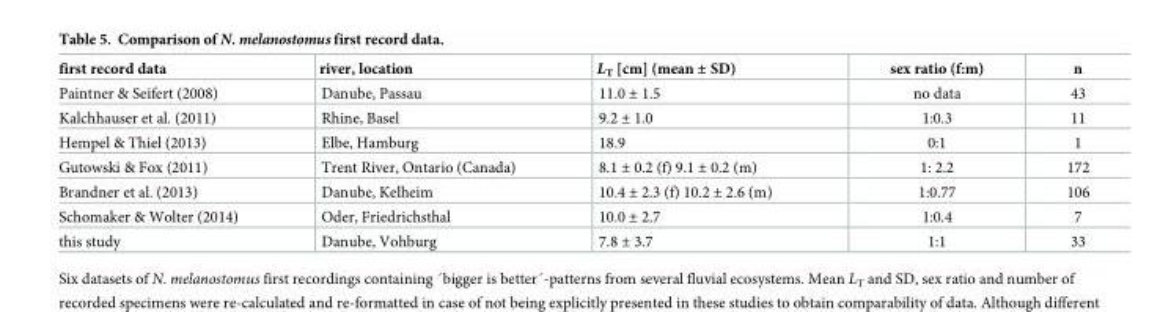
<table><thead><tr><td>first record data</td><td>river, location</td><td>L<sub>T</sub> [cm] (mean ± SD)</td><td>sex ratio (f:m)</td><td>n</td></tr></thead><tbody><tr><td>Paintner &amp; Seifert (2008)</td><td>Danube, Passau</td><td>11.0 ± 1.5</td><td>no data</td><td>43</td></tr><tr><td>Kalchhauser et al. (2011)</td><td>Rhine, Basel</td><td>9.2 ± 1.0</td><td>1:0.3</td><td>11</td></tr><tr><td>Hempel &amp; Thiel (2013)</td><td>Elbe, Hamburg</td><td>18.9</td><td>0:1</td><td>1</td></tr><tr><td>Gutowski &amp; Fox (2011)</td><td>Trent River, Ontario (Canada)</td><td>8.1 ± 0.2 (f) 9.1 ± 0.2 (m)</td><td>1: 2.2</td><td>172</td></tr><tr><td>Brandner et al. (2013)</td><td>Danube, Kelheim</td><td>10.4 ± 2.3 (f) 10.2 ± 2.6 (m)</td><td>1:0.77</td><td>106</td></tr><tr><td>Schomaker &amp; Wolter (2014)</td><td>Oder, Friedrichsthal</td><td>10.0 ± 2.7</td><td>1:0.4</td><td>7</td></tr><tr><td>this study</td><td>Danube, Vohburg</td><td>7.8 ± 3.7</td><td>1:1</td><td>33</td></tr></tbody></table>